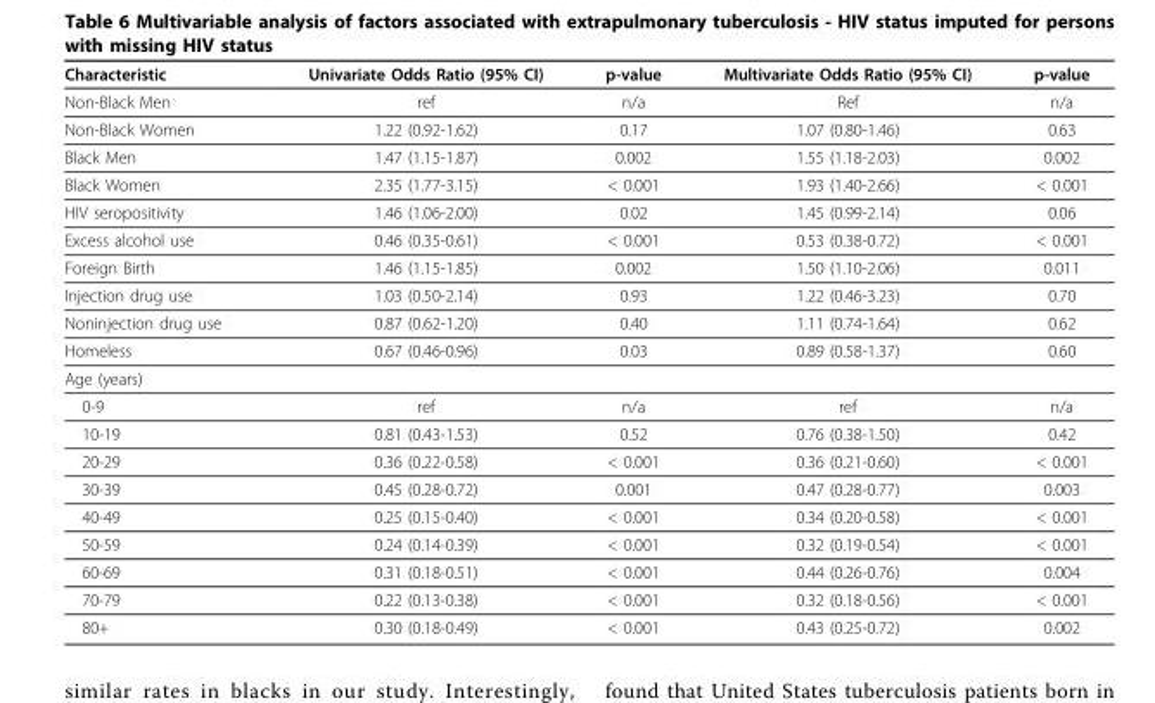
<table><thead><tr><td>Characteristic</td><td>Univariate Odds Ratio (95% CI)</td><td>p-value</td><td>Multivariate Odds Ratio (95% CI)</td><td>p-value</td></tr></thead><tbody><tr><td>Non-Black Men</td><td>ref</td><td>n/a</td><td>Ref</td><td>n/a</td></tr><tr><td>Non-Black Women</td><td>1.22 (0.92-1.62)</td><td>0.17</td><td>1.07 (0.80-1.46)</td><td>0.63</td></tr><tr><td>Black Men</td><td>1.47 (1.15-1.87)</td><td>0.002</td><td>1.55 (1.18-2.03)</td><td>0.002</td></tr><tr><td>Black Women</td><td>2.35 (1.77-3.15)</td><td>&lt; 0.001</td><td>1.93 (1.40-2.66)</td><td>&lt; 0.001</td></tr><tr><td>HIV seropositivity</td><td>1.46 (1.06-2.00)</td><td>0.02</td><td>1.45 (0.99-2.14)</td><td>0.06</td></tr><tr><td>Excess alcohol use</td><td>0.46 (0.35-0.61)</td><td>&lt; 0.001</td><td>0.53 (0.38-0.72)</td><td>&lt; 0.001</td></tr><tr><td>Foreign Birth</td><td>1.46 (1.15-1.85)</td><td>0.002</td><td>1.50 (1.10-2.06)</td><td>0.011</td></tr><tr><td>Injection drug use</td><td>1.03 (0.50-2.14)</td><td>0.93</td><td>1.22 (0.46-3.23)</td><td>0.70</td></tr><tr><td>Noninjection drug use</td><td>0.87 (0.62-1.20)</td><td>0.40</td><td>1.11 (0.74-1.64)</td><td>0.62</td></tr><tr><td>Homeless</td><td>0.67 (0.46-0.96)</td><td>0.03</td><td>0.89 (0.58-1.37)</td><td>0.60</td></tr><tr><td colspan="5">Age (years)</td></tr><tr><td>0-9</td><td>ref</td><td>n/a</td><td>ref</td><td>n/a</td></tr><tr><td>10-19</td><td>0.81 (0.43-1.53)</td><td>0.52</td><td>0.76 (0.38-1.50)</td><td>0.42</td></tr><tr><td>20-29</td><td>0.36 (0.22-0.58)</td><td>&lt; 0.001</td><td>0.36 (0.21-0.60)</td><td>&lt; 0.001</td></tr><tr><td>30-39</td><td>0.45 (0.28-0.72)</td><td>0.001</td><td>0.47 (0.28-0.77)</td><td>0.003</td></tr><tr><td>40-49</td><td>0.25 (0.15-0.40)</td><td>&lt; 0.001</td><td>0.34 (0.20-0.58)</td><td>&lt; 0.001</td></tr><tr><td>50-59</td><td>0.24 (0.14-0.39)</td><td>&lt; 0.001</td><td>0.32 (0.19-0.54)</td><td>&lt; 0.001</td></tr><tr><td>60-69</td><td>0.31 (0.18-0.51)</td><td>&lt; 0.001</td><td>0.44 (0.26-0.76)</td><td>0.004</td></tr><tr><td>70-79</td><td>0.22 (0.13-0.38)</td><td>&lt; 0.001</td><td>0.32 (0.18-0.56)</td><td>&lt; 0.001</td></tr><tr><td>80+</td><td>0.30 (0.18-0.49)</td><td>&lt; 0.001</td><td>0.43 (0.25-0.72)</td><td>0.002</td></tr></tbody></table>